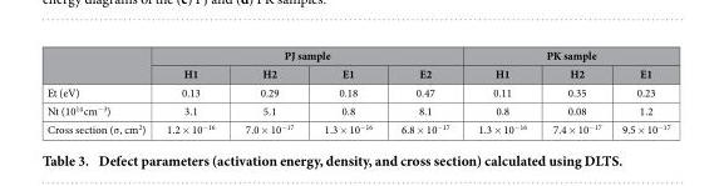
<table><thead><tr><td rowspan="2"></td><td colspan="4">PJ sample</td><td colspan="3">PK sample</td></tr><tr><td>H1</td><td>H2</td><td>E1</td><td>E2</td><td>H1</td><td>H2</td><td>E1</td></tr></thead><tbody><tr><td>Et (eV)</td><td>0.13</td><td>0.29</td><td>0.18</td><td>0.47</td><td>0.11</td><td>0.35</td><td>0.23</td></tr><tr><td>Nt (10<sup>14</sup> cm<sup>−3</sup>)</td><td>3.1</td><td>5.1</td><td>0.8</td><td>8.1</td><td>0.8</td><td>0.08</td><td>1.2</td></tr><tr><td>Cross section (σ , cm<sup>2</sup>)</td><td>1.2 × 10<sup>−16</sup></td><td>7.0 × 10<sup>−17</sup></td><td>1.3 × 10<sup>−16</sup></td><td>6.8 × 10<sup>−17</sup></td><td>1.3 × 10<sup>−16</sup></td><td>7.4 × 10<sup>−17</sup></td><td>9.5 × 10<sup>−17</sup></td></tr></tbody></table>